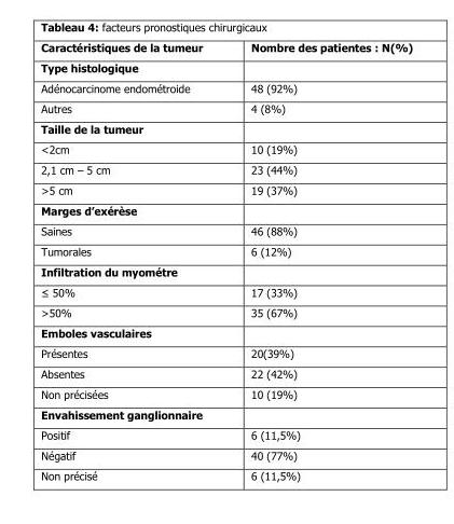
<table><thead><tr><td>Caractéristiques de la tumeur</td><td>Nombre des patientes : N(%)</td></tr></thead><tbody><tr><td colspan="2">Type histologique</td></tr><tr><td>Adénocarcinome endométroide</td><td>48 (92%)</td></tr><tr><td>Autres</td><td>4 (8%)</td></tr><tr><td colspan="2">Taille de la tumeur</td></tr><tr><td>&lt;2cm</td><td>10 (19%)</td></tr><tr><td>2,1 cm – 5 cm</td><td>23 (44%)</td></tr><tr><td>&gt;5 cm</td><td>19 (37%)</td></tr><tr><td colspan="2">Marges d’exérèse</td></tr><tr><td>Saines</td><td>46 (88%)</td></tr><tr><td>Tumorales</td><td>6 (12%)</td></tr><tr><td colspan="2">Infiltration du myométre</td></tr><tr><td>≤ 50%</td><td>17 (33%)</td></tr><tr><td>&gt;50%</td><td>35 (67%)</td></tr><tr><td colspan="2">Emboles vasculaires</td></tr><tr><td>Présentes</td><td>20(39%)</td></tr><tr><td>Absentes</td><td>22 (42%)</td></tr><tr><td>Non précisées</td><td>10 (19%)</td></tr><tr><td colspan="2">Envahissement ganglionnaire</td></tr><tr><td>Positif</td><td>6 (11,5%)</td></tr><tr><td>Négatif</td><td>40 (77%)</td></tr><tr><td>Non précisé</td><td>6 (11,5%)</td></tr></tbody></table>